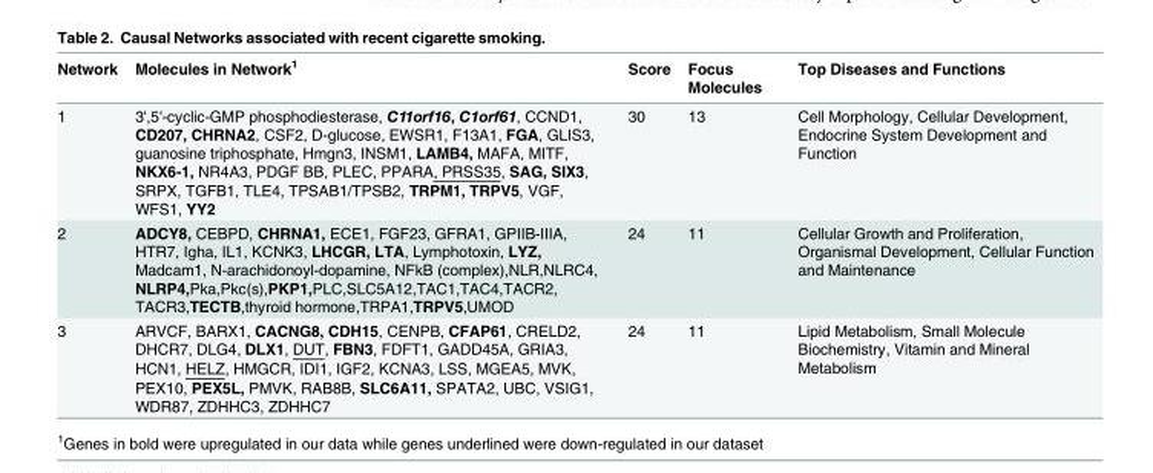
<table><thead><tr><td>Network</td><td>Molecules in Network<sup>1</sup></td><td>Score</td><td>Focus Molecules</td><td>Top Diseases and Functions</td></tr></thead><tbody><tr><td>1</td><td>3&#x27;,5&#x27;-cyclic-GMP phosphodiesterase, C11orf16, C1orf61, CCND1, CD207, CHRNA2, CSF2, D-glucose, EWSR1, F13A1, FGA, GLIS3, guanosine triphosphate, Hmgn3, INSM1, LAMB4, MAFA, MITF, NKX6-1, NR4A3, PDGF BB, PLEC, PPARA, PRSS35, SAG, SIX3, SRPX, TGFB1, TLE4, TPSAB1/TPSB2, TRPM1, TRPV5, VGF, WFS1, YY2</td><td>30</td><td>13</td><td>Cell Morphology, Cellular Development, Endocrine System Development and Function</td></tr><tr><td>2</td><td>ADCY8, CEBPD, CHRNA1, ECE1, FGF23, GFRA1, GPIIB-IIIA, HTR7, Igha, IL1, KCNK3, LHCGR, LTA, Lymphotoxin, LYZ, Madcam1, N-arachidonoyl-dopamine, NFkB (complex),NLR,NLRC4, NLRP4,Pka,Pkc(s),PKP1,PLC,SLC5A12,TAC1,TAC4,TACR2, TACR3,TECTB,thyroid hormone,TRPA1,TRPV5,UMOD</td><td>24</td><td>11</td><td>Cellular Growth and Proliferation, Organismal Development, Cellular Function and Maintenance</td></tr><tr><td>3</td><td>ARVCF, BARX1, CACNG8, CDH15, CENPB, CFAP61, CRELD2, DHCR7, DLG4, DLX1, DUT, FBN3, FDFT1, GADD45A, GRIA3, HCN1, HELZ, HMGCR, IDI1, IGF2, KCNA3, LSS, MGEA5, MVK, PEX10, PEX5L, PMVK, RAB8B, SLC6A11, SPATA2, UBC, VSIG1, WDR87, ZDHHC3, ZDHHC7</td><td>24</td><td>11</td><td>Lipid Metabolism, Small Molecule Biochemistry, Vitamin and Mineral Metabolism</td></tr></tbody></table>